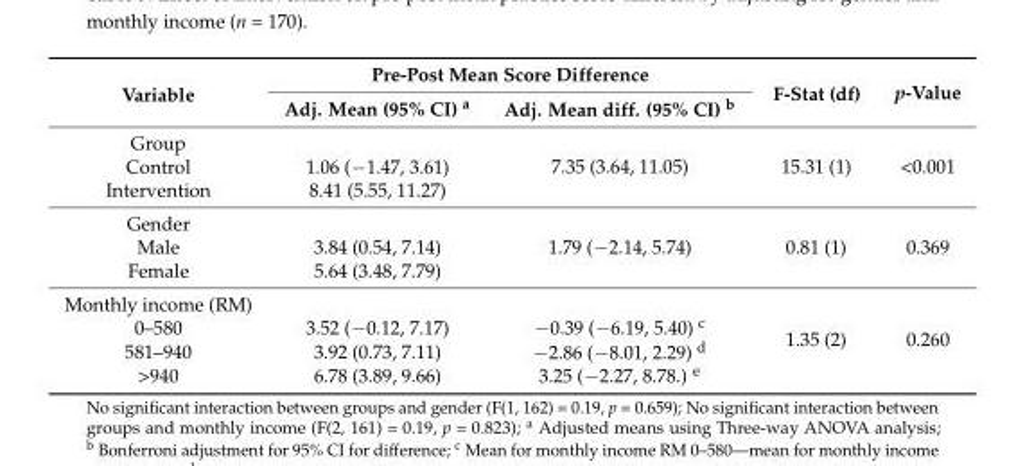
<table><thead><tr><td rowspan="2">Variable</td><td colspan="2">Pre-Post Mean Score Difference</td><td rowspan="2">F-Stat (df)</td><td rowspan="2">p-Value</td></tr><tr><td>Adj. Mean (95% CI) <sup>a</sup></td><td>Adj. Mean diff. (95% CI) <sup>b</sup></td></tr></thead><tbody><tr><td>Group Control Intervention</td><td>1.06 (−1.47, 3.61) 8.41 (5.55, 11.27)</td><td>7.35 (3.64, 11.05)</td><td>15.31 (1)</td><td>&lt;0.001</td></tr><tr><td>Gender Male Female</td><td>3.84 (0.54, 7.14) 5.64 (3.48, 7.79)</td><td>1.79 (−2.14, 5.74)</td><td>0.81 (1)</td><td>0.369</td></tr><tr><td>Monthly income (RM) 0–580 581–940 &gt;940</td><td>3.52 (−0.12, 7.17) 3.92 (0.73, 7.11) 6.78 (3.89, 9.66)</td><td>−0.39 (−6.19, 5.40) <sup>c</sup> −2.86 (−8.01, 2.29) <sup>d</sup> 3.25 (−2.27, 8.78.) <sup>e</sup></td><td>1.35 (2)</td><td>0.260</td></tr></tbody></table>